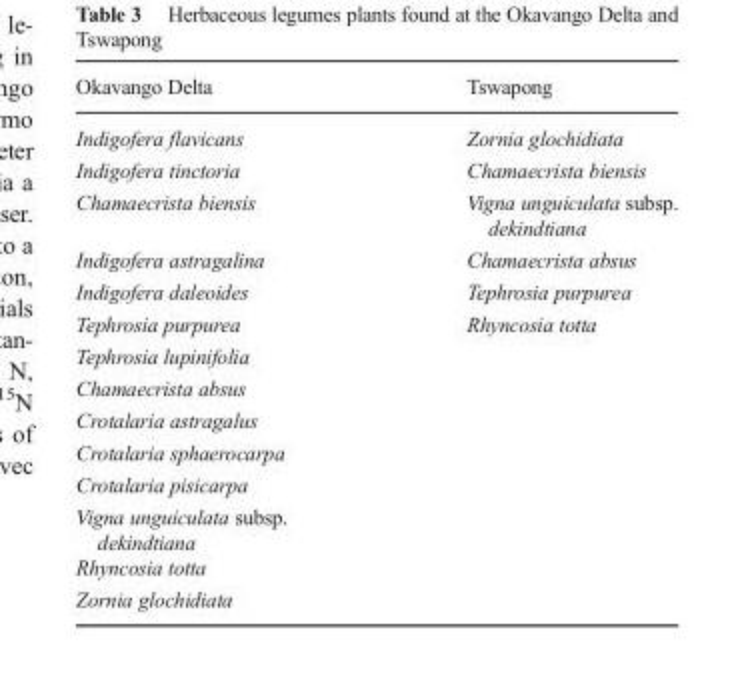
<table><thead><tr><td>Okavango Delta</td><td>Tswapong</td></tr></thead><tbody><tr><td>Indigofera flavicans</td><td>Zornia glochidiata</td></tr><tr><td>Indigofera tinctoria</td><td>Chamaecrista biensis</td></tr><tr><td>Chamaecrista biensis</td><td>Vigna unguiculata subsp. dekindtiana</td></tr><tr><td>Indigofera astragalina</td><td>Chamaecrista absus</td></tr><tr><td>Indigofera daleoides</td><td>Tephrosia purpurea</td></tr><tr><td>Tephrosia purpurea</td><td>Rhyncosia totta</td></tr><tr><td colspan="2">Tephrosia lupinifolia</td></tr><tr><td colspan="2">Chamaecrista absus</td></tr><tr><td colspan="2">Crotalaria astragalus</td></tr><tr><td colspan="2">Crotalaria sphaerocarpa</td></tr><tr><td colspan="2">Crotalaria pisicarpa</td></tr><tr><td colspan="2">Vigna unguiculata subsp. dekindtiana</td></tr><tr><td colspan="2">Rhyncosia totta</td></tr><tr><td>Zornia glochidiata</td><td></td></tr></tbody></table>